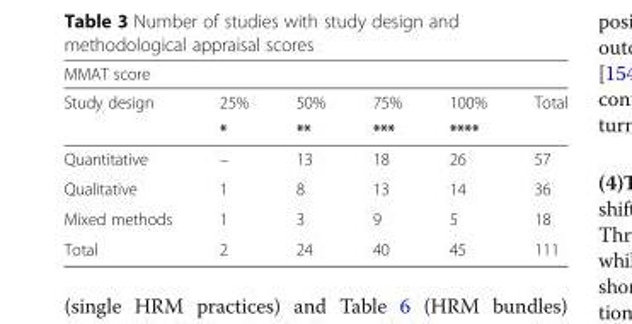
<table><thead><tr><td colspan="6">MMAT score</td></tr><tr><td rowspan="2">Study design</td><td rowspan="2">25% *</td><td rowspan="2">50% **</td><td rowspan="2">75% ***</td><td rowspan="2">100% ****</td><td rowspan="2">Total</td></tr><tr></tr></thead><tbody><tr><td>Quantitative</td><td>–</td><td>13</td><td>18</td><td>26</td><td>57</td></tr><tr><td>Qualitative</td><td>1</td><td>8</td><td>13</td><td>14</td><td>36</td></tr><tr><td>Mixed methods</td><td>1</td><td>3</td><td>9</td><td>5</td><td>18</td></tr><tr><td>Total</td><td>2</td><td>24</td><td>40</td><td>45</td><td>111</td></tr></tbody></table>